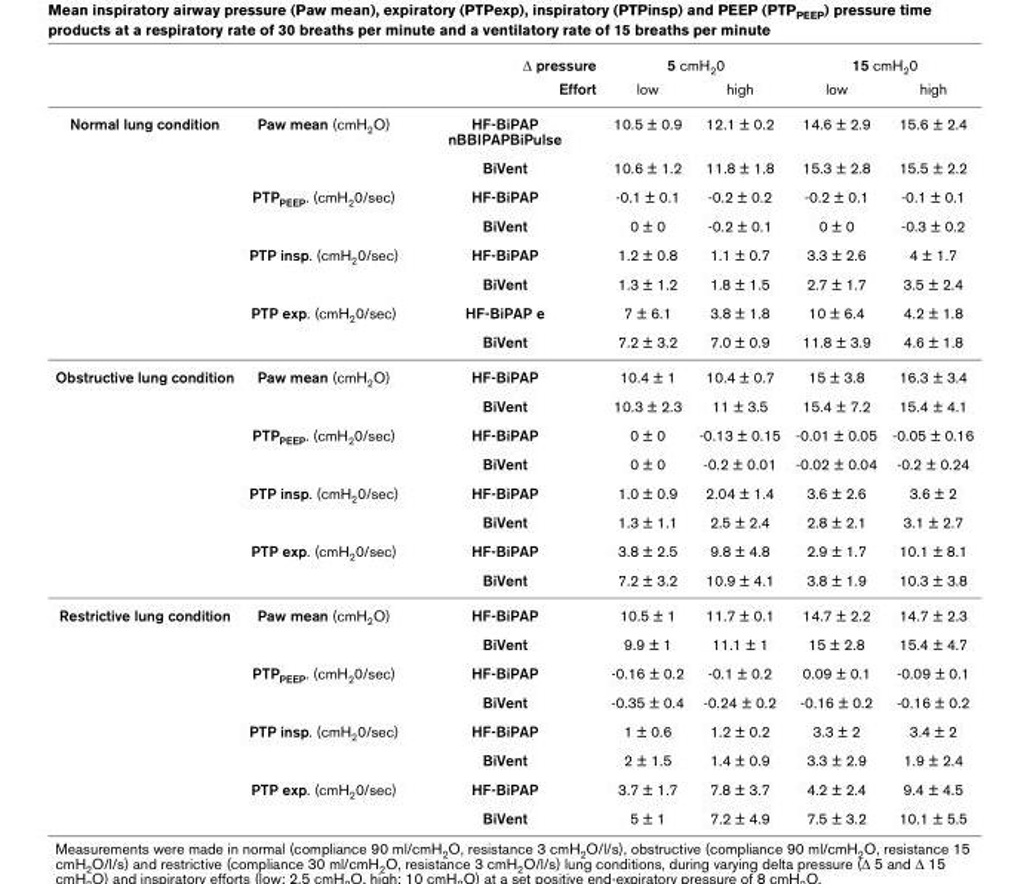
<table><thead><tr><td rowspan="2" colspan="3">Δ pressure Effort</td><td colspan="2">5 cmH<sub>2</sub>0</td><td colspan="2">15 cmH<sub>2</sub>0</td></tr><tr><td rowspan="2">low 10.5 ± 0.9</td><td rowspan="2">high 12.1 ± 0.2</td><td rowspan="2">low 14.6 ± 2.9</td><td rowspan="2">high 15.6 ± 2.4</td></tr><tr><td>Normal lung condition</td><td>Paw mean (cmH<sub>2</sub>O)</td><td>HF-BiPAP nBBIPAPBiPulse</td></tr></thead><tbody><tr><td></td><td></td><td>BiVent</td><td>10.6 ± 1.2</td><td>11.8 ± 1.8</td><td>15.3 ± 2.8</td><td>15.5 ± 2.2</td></tr><tr><td></td><td>PTP<sub>PEEP</sub>. (cmH<sub>2</sub>0/sec)</td><td>HF-BiPAP</td><td>-0.1 ± 0.1</td><td>-0.2 ± 0.2</td><td>-0.2 ± 0.1</td><td>-0.1 ± 0.1</td></tr><tr><td></td><td></td><td>BiVent</td><td>0 ± 0</td><td>-0.2 ± 0.1</td><td>0 ± 0</td><td>-0.3 ± 0.2</td></tr><tr><td></td><td>PTP insp. (cmH<sub>2</sub>0/sec)</td><td>HF-BiPAP</td><td>1.2 ± 0.8</td><td>1.1 ± 0.7</td><td>3.3 ± 2.6</td><td>4 ± 1.7</td></tr><tr><td></td><td></td><td>BiVent</td><td>1.3 ± 1.2</td><td>1.8 ± 1.5</td><td>2.7 ± 1.7</td><td>3.5 ± 2.4</td></tr><tr><td></td><td>PTP exp. (cmH<sub>2</sub>0/sec)</td><td>HF-BiPAP e</td><td>7 ± 6.1</td><td>3.8 ± 1.8</td><td>10 ± 6.4</td><td>4.2 ± 1.8</td></tr><tr><td></td><td></td><td>BiVent</td><td>7.2 ± 3.2</td><td>7.0 ± 0.9</td><td>11.8 ± 3.9</td><td>4.6 ± 1.8</td></tr><tr><td rowspan="8">Obstructive lung condition</td><td>Paw mean (cmH<sub>2</sub>O)</td><td>HF-BiPAP</td><td>10.4 ± 1</td><td>10.4 ± 0.7</td><td>15 ± 3.8</td><td>16.3 ± 3.4</td></tr><tr><td></td><td>BiVent</td><td>10.3 ± 2.3</td><td>11 ± 3.5</td><td>15.4 ± 7.2</td><td>15.4 ± 4.1</td></tr><tr><td>PTP<sub>PEEP</sub>. (cmH<sub>2</sub>0/sec)</td><td>HF-BiPAP</td><td>0 ± 0</td><td>-0.13 ± 0.15</td><td>-0.01 ± 0.05</td><td>-0.05 ± 0.16</td></tr><tr><td></td><td>BiVent</td><td>0 ± 0</td><td>-0.2 ± 0.01</td><td>-0.02 ± 0.04</td><td>-0.2 ± 0.24</td></tr><tr><td>PTP insp. (cmH<sub>2</sub>0/sec)</td><td>HF-BiPAP</td><td>1.0 ± 0.9</td><td>2.04 ± 1.4</td><td>3.6 ± 2.6</td><td>3.6 ± 2</td></tr><tr><td></td><td>BiVent</td><td>1.3 ± 1.1</td><td>2.5 ± 2.4</td><td>2.8 ± 2.1</td><td>3.1 ± 2.7</td></tr><tr><td>PTP exp. (cmH<sub>2</sub>0/sec)</td><td>HF-BiPAP</td><td>3.8 ± 2.5</td><td>9.8 ± 4.8</td><td>2.9 ± 1.7</td><td>10.1 ± 8.1</td></tr><tr><td></td><td>BiVent</td><td>7.2 ± 3.2</td><td>10.9 ± 4.1</td><td>3.8 ± 1.9</td><td>10.3 ± 3.8</td></tr><tr><td rowspan="8">Restrictive lung condition</td><td>Paw mean (cmH<sub>2</sub>O)</td><td>HF-BiPAP</td><td>10.5 ± 1</td><td>11.7 ± 0.1</td><td>14.7 ± 2.2</td><td>14.7 ± 2.3</td></tr><tr><td></td><td>BiVent</td><td>9.9 ± 1</td><td>11.1 ± 1</td><td>15 ± 2.8</td><td>15.4 ± 4.7</td></tr><tr><td>PTP<sub>PEEP</sub>. (cmH<sub>2</sub>0/sec)</td><td>HF-BiPAP</td><td>-0.16 ± 0.2</td><td>-0.1 ± 0.2</td><td>0.09 ± 0.1</td><td>-0.09 ± 0.1</td></tr><tr><td></td><td>BiVent</td><td>-0.35 ± 0.4</td><td>-0.24 ± 0.2</td><td>-0.16 ± 0.2</td><td>-0.16 ± 0.2</td></tr><tr><td>PTP insp. (cmH<sub>2</sub>0/sec)</td><td>HF-BiPAP</td><td>1 ± 0.6</td><td>1.2 ± 0.2</td><td>3.3 ± 2</td><td>3.4 ± 2</td></tr><tr><td></td><td>BiVent</td><td>2 ± 1.5</td><td>1.4 ± 0.9</td><td>3.3 ± 2.9</td><td>1.9 ± 2.4</td></tr><tr><td>PTP exp. (cmH<sub>2</sub>0/sec)</td><td>HF-BiPAP</td><td>3.7 ± 1.7</td><td>7.8 ± 3.7</td><td>4.2 ± 2.4</td><td>9.4 ± 4.5</td></tr><tr><td></td><td>BiVent</td><td>5 ± 1</td><td>7.2 ± 4.9</td><td>7.5 ± 3.2</td><td>10.1 ± 5.5</td></tr></tbody></table>